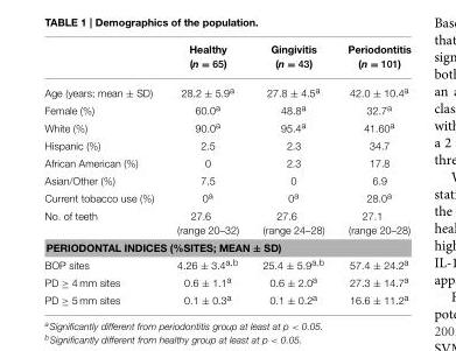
<table><thead><tr><td></td><td>Healthy (n = 65)</td><td>Gingivitis (n = 43)</td><td>Periodontitis (n = 101)</td></tr></thead><tbody><tr><td>Age (years; mean ± SD)</td><td>28.2 ± 5.9<sup>a</sup></td><td>27.8 ± 4.5<sup>a</sup></td><td>42.0 ± 10.4<sup>a</sup></td></tr><tr><td>Female (%)</td><td>60.0<sup>a</sup></td><td>48.8<sup>a</sup></td><td>32.7<sup>a</sup></td></tr><tr><td>White (%)</td><td>90.0<sup>a</sup></td><td>95.4<sup>a</sup></td><td>41.60<sup>a</sup></td></tr><tr><td>Hispanic (%)</td><td>2.5</td><td>2.3</td><td>34.7</td></tr><tr><td>African American (%)</td><td>0</td><td>2.3</td><td>17.8</td></tr><tr><td>Asian/Other (%)</td><td>7.5</td><td>0</td><td>6.9</td></tr><tr><td>Current tobacco use (%)</td><td>0<sup>a</sup></td><td>0<sup>a</sup></td><td>28.0<sup>a</sup></td></tr><tr><td>No. of teeth</td><td>27.6 (range 20–32)</td><td>27.6 (range 24–28)</td><td>27.1 (range 20–28)</td></tr><tr><td colspan="4">PERIODONTAL INDICES (%SITES; MEAN ± SD)</td></tr><tr><td>BOP sites</td><td>4.26 ± 3.4<sup>a,b</sup></td><td>25.4 ± 5.9<sup>a,b</sup></td><td>57.4 ± 24.2<sup>a</sup></td></tr><tr><td>PD ≥ 4 mm sites</td><td>0.6 ± 1.1<sup>a</sup></td><td>0.6 ± 2.0<sup>a</sup></td><td>27.3 ± 14.7<sup>a</sup></td></tr><tr><td>PD ≥ 5 mm sites</td><td>0.1 ± 0.3<sup>a</sup></td><td>0.1 ± 0.2<sup>a</sup></td><td>16.6 ± 11.2<sup>a</sup></td></tr></tbody></table>